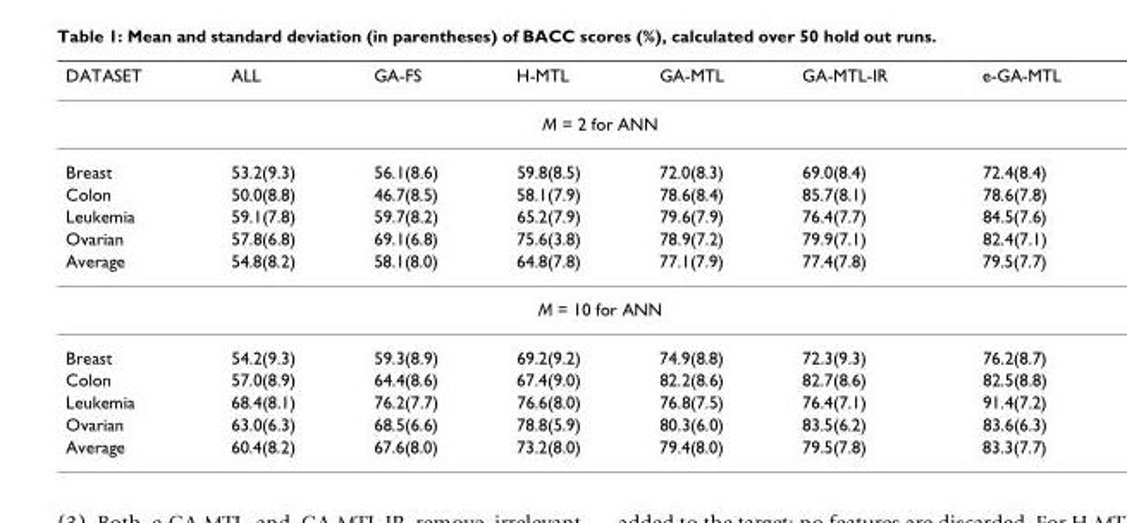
<table><thead><tr><td>DATASET</td><td>ALL</td><td>GA-FS</td><td>H-MTL</td><td>GA-MTL</td><td>GA-MTL-IR</td><td>e-GA-MTL</td></tr></thead><tbody><tr><td colspan="7">M = 2 for ANN</td></tr><tr><td>Breast</td><td>53.2(9.3)</td><td>56.1(8.6)</td><td>59.8(8.5)</td><td>72.0(8.3)</td><td>69.0(8.4)</td><td>72.4(8.4)</td></tr><tr><td>Colon</td><td>50.0(8.8)</td><td>46.7(8.5)</td><td>58.1(7.9)</td><td>78.6(8.4)</td><td>85.7(8.1)</td><td>78.6(7.8)</td></tr><tr><td>Leukemia</td><td>59.1(7.8)</td><td>59.7(8.2)</td><td>65.2(7.9)</td><td>79.6(7.9)</td><td>76.4(7.7)</td><td>84.5(7.6)</td></tr><tr><td>Ovarian</td><td>57.8(6.8)</td><td>69.1(6.8)</td><td>75.6(3.8)</td><td>78.9(7.2)</td><td>79.9(7.1)</td><td>82.4(7.1)</td></tr><tr><td>Average</td><td>54.8(8.2)</td><td>58.1(8.0)</td><td>64.8(7.8)</td><td>77.1(7.9)</td><td>77.4(7.8)</td><td>79.5(7.7)</td></tr><tr><td colspan="7">M = 10 for ANN</td></tr><tr><td>Breast</td><td>54.2(9.3)</td><td>59.3(8.9)</td><td>69.2(9.2)</td><td>74.9(8.8)</td><td>72.3(9.3)</td><td>76.2(8.7)</td></tr><tr><td>Colon</td><td>57.0(8.9)</td><td>64.4(8.6)</td><td>67.4(9.0)</td><td>82.2(8.6)</td><td>82.7(8.6)</td><td>82.5(8.8)</td></tr><tr><td>Leukemia</td><td>68.4(8.1)</td><td>76.2(7.7)</td><td>76.6(8.0)</td><td>76.8(7.5)</td><td>76.4(7.1)</td><td>91.4(7.2)</td></tr><tr><td>Ovarian</td><td>63.0(6.3)</td><td>68.5(6.6)</td><td>78.8(5.9)</td><td>80.3(6.0)</td><td>83.5(6.2)</td><td>83.6(6.3)</td></tr><tr><td>Average</td><td>60.4(8.2)</td><td>67.6(8.0)</td><td>73.2(8.0)</td><td>79.4(8.0)</td><td>79.5(7.8)</td><td>83.3(7.7)</td></tr></tbody></table>